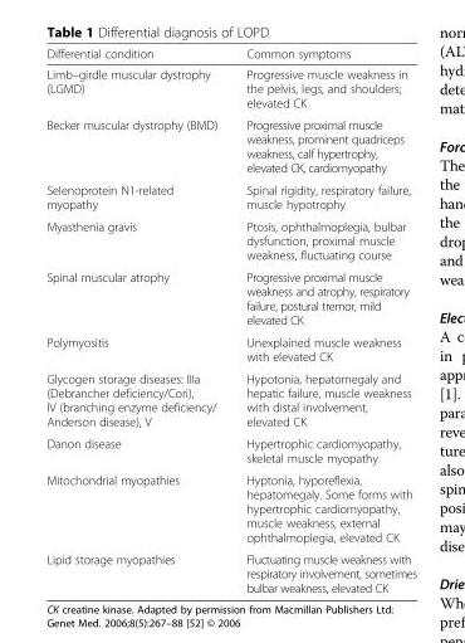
<table><thead><tr><td>Differential condition</td><td>Common symptoms</td></tr></thead><tbody><tr><td>Limb–girdle muscular dystrophy (LGMD)</td><td>Progressive muscle weakness in the pelvis, legs, and shoulders; elevated CK</td></tr><tr><td>Becker muscular dystrophy (BMD)</td><td>Progressive proximal muscle weakness, prominent quadriceps weakness, calf hypertrophy, elevated CK, cardiomyopathy</td></tr><tr><td>Selenoprotein N1-related myopathy</td><td>Spinal rigidity, respiratory failure, muscle hypotrophy</td></tr><tr><td>Myasthenia gravis</td><td>Ptosis, ophthalmoplegia, bulbar dysfunction, proximal muscle weakness, fluctuating course</td></tr><tr><td>Spinal muscular atrophy</td><td>Progressive proximal muscle weakness and atrophy, respiratory failure, postural tremor, mild elevated CK</td></tr><tr><td>Polymyositis</td><td>Unexplained muscle weakness with elevated CK</td></tr><tr><td>Glycogen storage diseases: IIIa (Debrancher deficiency/Cori), IV (branching enzyme deficiency/ Anderson disease), V</td><td>Hypotonia, hepatomegaly and hepatic failure, muscle weakness with distal involvement, elevated CK</td></tr><tr><td>Danon disease</td><td>Hypertrophic cardiomyopathy, skeletal muscle myopathy</td></tr><tr><td>Mitochondrial myopathies</td><td>Hyptonia, hyporeflexia, hepatomegaly. Some forms with hypertrophic cardiomyopathy, muscle weakness, external ophthalmoplegia, elevated CK</td></tr><tr><td>Lipid storage myopathies</td><td>Fluctuating muscle weakness with respiratory involvement, sometimes bulbar weakness, elevated CK</td></tr></tbody></table>